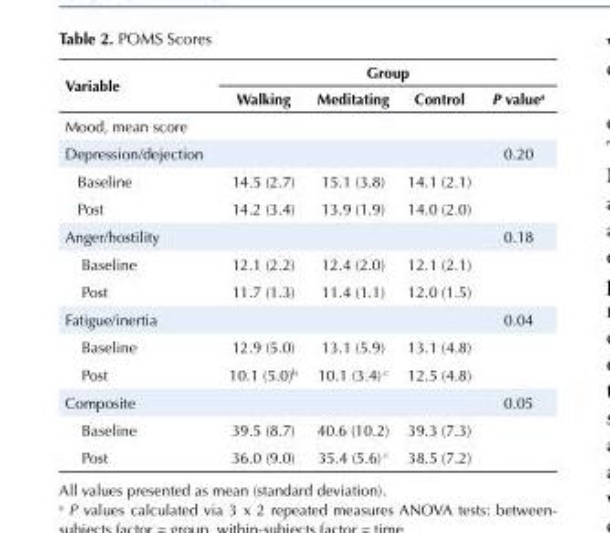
<table><tbody><tr><td rowspan="2">Variable</td><td colspan="4">Group</td></tr><tr><td>Walking</td><td>Meditating</td><td>Control</td><td>P value<sup>a</sup></td></tr><tr><td colspan="5">Mood, mean score</td></tr><tr><td>Depression/dejection</td><td></td><td></td><td></td><td>0.20</td></tr><tr><td>Baseline</td><td>14.5 (2.7)</td><td>15.1 (3.8)</td><td>14.1 (2.1)</td><td></td></tr><tr><td>Post</td><td>14.2 (3.4)</td><td>13.9 (1.9)</td><td>14.0 (2.0)</td><td></td></tr><tr><td>Anger/hostility</td><td></td><td></td><td></td><td>0.18</td></tr><tr><td>Baseline</td><td>12.1 (2.2)</td><td>12.4 (2.0)</td><td>12.1 (2.1)</td><td></td></tr><tr><td>Post</td><td>11.7 (1.3)</td><td>11.4 (1.1)</td><td>12.0 (1.5)</td><td></td></tr><tr><td>Fatigue/inertia</td><td></td><td></td><td></td><td>0.04</td></tr><tr><td>Baseline</td><td>12.9 (5.0)</td><td>13.1 (5.9)</td><td>13.1 (4.8)</td><td></td></tr><tr><td>Post</td><td>10.1 (5.0)<sup>b</sup></td><td>10.1 (3.4) <sup>c</sup></td><td>12.5 (4.8)</td><td></td></tr><tr><td>Composite</td><td></td><td></td><td></td><td>0.05</td></tr><tr><td>Baseline</td><td>39.5 (8.7)</td><td>40.6 (10.2)</td><td>39.3 (7.3)</td><td></td></tr><tr><td>Post</td><td>36.0 (9.0)</td><td>35.4 (5.6) <sup>c</sup></td><td>38.5 (7.2)</td><td></td></tr></tbody></table>